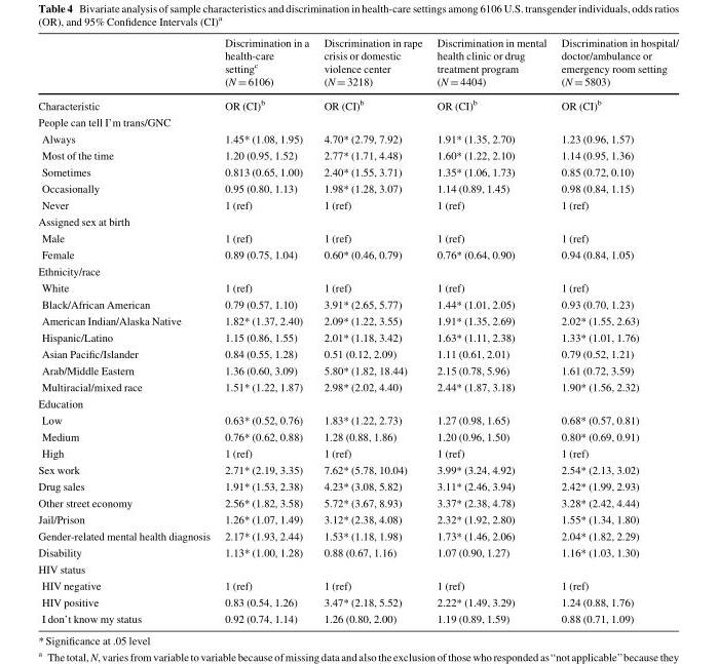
<table><thead><tr><td></td><td>Discrimination in a health-care setting<sup>c</sup> (N = 6106)</td><td>Discrimination in rape crisis or domestic violence center (N = 3218)</td><td>Discrimination in mental health clinic or drug treatment program (N = 4404)</td><td>Discrimination in hospital/ doctor/ambulance or emergency room setting (N = 5803)</td></tr></thead><tbody><tr><td>Characteristic</td><td>OR (CI)<sup>b</sup></td><td>OR (CI)<sup>b</sup></td><td>OR (CI)<sup>b</sup></td><td>OR (CI)<sup>b</sup></td></tr><tr><td colspan="5">People can tell I’m trans/GNC</td></tr><tr><td>Always</td><td>1.45* (1.08, 1.95)</td><td>4.70* (2.79, 7.92)</td><td>1.91* (1.35, 2.70)</td><td>1.23 (0.96, 1.57)</td></tr><tr><td>Most of the time</td><td>1.20 (0.95, 1.52)</td><td>2.77* (1.71, 4.48)</td><td>1.60* (1.22, 2.10)</td><td>1.14 (0.95, 1.36)</td></tr><tr><td>Sometimes</td><td>0.813 (0.65, 1.00)</td><td>2.40* (1.55, 3.71)</td><td>1.35* (1.06, 1.73)</td><td>0.85 (0.72, 0.10)</td></tr><tr><td>Occasionally</td><td>0.95 (0.80, 1.13)</td><td>1.98* (1.28, 3.07)</td><td>1.14 (0.89, 1.45)</td><td>0.98 (0.84, 1.15)</td></tr><tr><td>Never</td><td>1 (ref)</td><td>1 (ref)</td><td>1 (ref)</td><td>1 (ref)</td></tr><tr><td colspan="5">Assigned sex at birth</td></tr><tr><td>Male</td><td>1 (ref)</td><td>1 (ref)</td><td>1 (ref)</td><td>1 (ref)</td></tr><tr><td>Female</td><td>0.89 (0.75, 1.04)</td><td>0.60* (0.46, 0.79)</td><td>0.76* (0.64, 0.90)</td><td>0.94 (0.84, 1.05)</td></tr><tr><td colspan="5">Ethnicity/race</td></tr><tr><td>White</td><td>1 (ref)</td><td>1 (ref)</td><td>1 (ref)</td><td>1 (ref)</td></tr><tr><td>Black/African American</td><td>0.79 (0.57, 1.10)</td><td>3.91* (2.65, 5.77)</td><td>1.44* (1.01, 2.05)</td><td>0.93 (0.70, 1.23)</td></tr><tr><td>American Indian/Alaska Native</td><td>1.82* (1.37, 2.40)</td><td>2.09* (1.22, 3.55)</td><td>1.91* (1.35, 2.69)</td><td>2.02* (1.55, 2.63)</td></tr><tr><td>Hispanic/Latino</td><td>1.15 (0.86, 1.55)</td><td>2.01* (1.18, 3.42)</td><td>1.63* (1.11, 2.38)</td><td>1.33* (1.01, 1.76)</td></tr><tr><td>Asian Pacific/Islander</td><td>0.84 (0.55, 1.28)</td><td>0.51 (0.12, 2.09)</td><td>1.11 (0.61, 2.01)</td><td>0.79 (0.52, 1.21)</td></tr><tr><td>Arab/Middle Eastern</td><td>1.36 (0.60, 3.09)</td><td>5.80* (1.82, 18.44)</td><td>2.15 (0.78, 5.96)</td><td>1.61 (0.72, 3.59)</td></tr><tr><td>Multiracial/mixed race</td><td>1.51* (1.22, 1.87)</td><td>2.98* (2.02, 4.40)</td><td>2.44* (1.87, 3.18)</td><td>1.90* (1.56, 2.32)</td></tr><tr><td colspan="5">Education</td></tr><tr><td>Low</td><td>0.63* (0.52, 0.76)</td><td>1.83* (1.22, 2.73)</td><td>1.27 (0.98, 1.65)</td><td>0.68* (0.57, 0.81)</td></tr><tr><td>Medium</td><td>0.76* (0.62, 0.88)</td><td>1.28 (0.88, 1.86)</td><td>1.20 (0.96, 1.50)</td><td>0.80* (0.69, 0.91)</td></tr><tr><td>High</td><td>1 (ref)</td><td>1 (ref)</td><td>1 (ref)</td><td>1 (ref)</td></tr><tr><td>Sex work</td><td>2.71* (2.19, 3.35)</td><td>7.62* (5.78, 10.04)</td><td>3.99* (3.24, 4.92)</td><td>2.54* (2.13, 3.02)</td></tr><tr><td>Drug sales</td><td>1.91* (1.53, 2.38)</td><td>4.23* (3.08, 5.82)</td><td>3.11* (2.46, 3.94)</td><td>2.42* (1.99, 2.93)</td></tr><tr><td>Other street economy</td><td>2.56* (1.82, 3.58)</td><td>5.72* (3.67, 8.93)</td><td>3.37* (2.38, 4.78)</td><td>3.28* (2.42, 4.44)</td></tr><tr><td>Jail/Prison</td><td>1.26* (1.07, 1.49)</td><td>3.12* (2.38, 4.08)</td><td>2.32* (1.92, 2.80)</td><td>1.55* (1.34, 1.80)</td></tr><tr><td>Gender-related mental health diagnosis</td><td>2.17* (1.93, 2.44)</td><td>1.53* (1.18, 1.98)</td><td>1.73* (1.46, 2.06)</td><td>2.04* (1.82, 2.29)</td></tr><tr><td>Disability</td><td>1.13* (1.00, 1.28)</td><td>0.88 (0.67, 1.16)</td><td>1.07 (0.90, 1.27)</td><td>1.16* (1.03, 1.30)</td></tr><tr><td colspan="5">HIV status</td></tr><tr><td>HIV negative</td><td>1 (ref)</td><td>1 (ref)</td><td>1 (ref)</td><td>1 (ref)</td></tr><tr><td>HIV positive</td><td>0.83 (0.54, 1.26)</td><td>3.47* (2.18, 5.52)</td><td>2.22* (1.49, 3.29)</td><td>1.24 (0.88, 1.76)</td></tr><tr><td>I don’t know my status</td><td>0.92 (0.74, 1.14)</td><td>1.26 (0.80, 2.00)</td><td>1.19 (0.89, 1.59)</td><td>0.88 (0.71, 1.09)</td></tr></tbody></table>